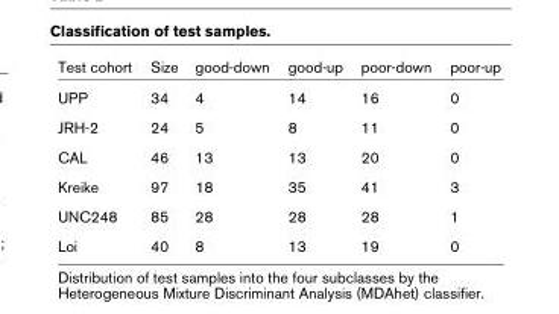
<table><thead><tr><td>Test cohort</td><td>Size</td><td>good-down</td><td>good-up</td><td>poor-down</td><td>poor-up</td></tr></thead><tbody><tr><td>UPP</td><td>34</td><td>4</td><td>14</td><td>16</td><td>0</td></tr><tr><td>JRH-2</td><td>24</td><td>5</td><td>8</td><td>11</td><td>0</td></tr><tr><td>CAL</td><td>46</td><td>13</td><td>13</td><td>20</td><td>0</td></tr><tr><td>Kreike</td><td>97</td><td>18</td><td>35</td><td>41</td><td>3</td></tr><tr><td>UNC248</td><td>85</td><td>28</td><td>28</td><td>28</td><td>1</td></tr><tr><td>Loi</td><td>40</td><td>8</td><td>13</td><td>19</td><td>0</td></tr></tbody></table>